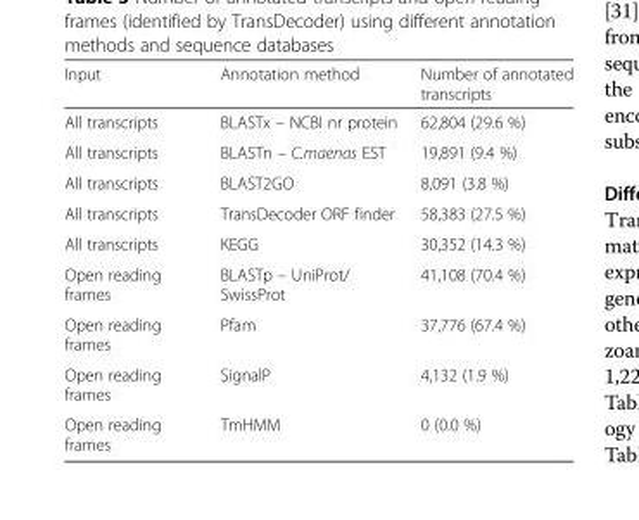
<table><thead><tr><td>Input</td><td>Annotation method</td><td>Number of annotated transcripts</td></tr></thead><tbody><tr><td>All transcripts</td><td>BLASTx – NCBI nr protein</td><td>62,804 (29.6 %)</td></tr><tr><td>All transcripts</td><td>BLASTn – C.maenas EST</td><td>19,891 (9.4 %)</td></tr><tr><td>All transcripts</td><td>BLAST2GO</td><td>8,091 (3.8 %)</td></tr><tr><td>All transcripts</td><td>TransDecoder ORF finder</td><td>58,383 (27.5 %)</td></tr><tr><td>All transcripts</td><td>KEGG</td><td>30,352 (14.3 %)</td></tr><tr><td>Open reading frames</td><td>BLASTp – UniProt/ SwissProt</td><td>41,108 (70.4 %)</td></tr><tr><td>Open reading frames</td><td>Pfam</td><td>37,776 (67.4 %)</td></tr><tr><td>Open reading frames</td><td>SignalP</td><td>4,132 (1.9 %)</td></tr><tr><td>Open reading frames</td><td>TmHMM</td><td>0 (0.0 %)</td></tr></tbody></table>